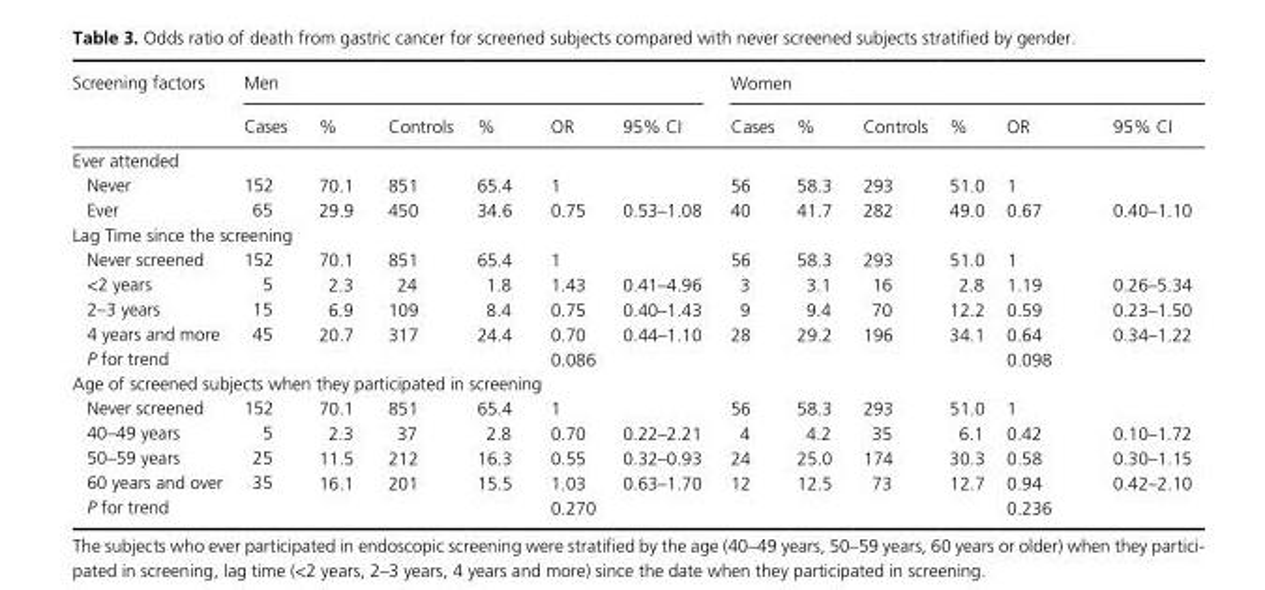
<table><thead><tr><td rowspan="2">Screening factors</td><td colspan="6">Men</td><td colspan="6">Women</td></tr><tr><td>Cases</td><td>%</td><td>Controls</td><td>%</td><td>OR</td><td>95% CI</td><td>Cases</td><td>%</td><td>Controls</td><td>%</td><td>OR</td><td>95% CI</td></tr></thead><tbody><tr><td colspan="13">Ever attended</td></tr><tr><td>Never</td><td>152</td><td>70.1</td><td>851</td><td>65.4</td><td>1</td><td></td><td>56</td><td>58.3</td><td>293</td><td>51.0</td><td>1</td><td></td></tr><tr><td>Ever</td><td>65</td><td>29.9</td><td>450</td><td>34.6</td><td>0.75</td><td>0.53–1.08</td><td>40</td><td>41.7</td><td>282</td><td>49.0</td><td>0.67</td><td>0.40–1.10</td></tr><tr><td colspan="13">Lag Time since the screening</td></tr><tr><td>Never screened</td><td>152</td><td>70.1</td><td>851</td><td>65.4</td><td>1</td><td></td><td>56</td><td>58.3</td><td>293</td><td>51.0</td><td>1</td><td></td></tr><tr><td>&lt;2 years</td><td>5</td><td>2.3</td><td>24</td><td>1.8</td><td>1.43</td><td>0.41–4.96</td><td>3</td><td>3.1</td><td>16</td><td>2.8</td><td>1.19</td><td>0.26–5.34</td></tr><tr><td>2–3 years</td><td>15</td><td>6.9</td><td>109</td><td>8.4</td><td>0.75</td><td>0.40–1.43</td><td>9</td><td>9.4</td><td>70</td><td>12.2</td><td>0.59</td><td>0.23–1.50</td></tr><tr><td>4 years and more</td><td>45</td><td>20.7</td><td>317</td><td>24.4</td><td>0.70</td><td>0.44–1.10</td><td>28</td><td>29.2</td><td>196</td><td>34.1</td><td>0.64</td><td>0.34–1.22</td></tr><tr><td>P for trend</td><td></td><td></td><td></td><td></td><td colspan="2">0.086</td><td></td><td></td><td></td><td></td><td colspan="2">0.098</td></tr><tr><td colspan="13">Age of screened subjects when they participated in screening</td></tr><tr><td>Never screened</td><td>152</td><td>70.1</td><td>851</td><td>65.4</td><td>1</td><td></td><td>56</td><td>58.3</td><td>293</td><td>51.0</td><td>1</td><td></td></tr><tr><td>40–49 years</td><td>5</td><td>2.3</td><td>37</td><td>2.8</td><td>0.70</td><td>0.22–2.21</td><td>4</td><td>4.2</td><td>35</td><td>6.1</td><td>0.42</td><td>0.10–1.72</td></tr><tr><td>50–59 years</td><td>25</td><td>11.5</td><td>212</td><td>16.3</td><td>0.55</td><td>0.32–0.93</td><td>24</td><td>25.0</td><td>174</td><td>30.3</td><td>0.58</td><td>0.30–1.15</td></tr><tr><td>60 years and over</td><td>35</td><td>16.1</td><td>201</td><td>15.5</td><td>1.03</td><td>0.63–1.70</td><td>12</td><td>12.5</td><td>73</td><td>12.7</td><td>0.94</td><td>0.42–2.10</td></tr><tr><td>P for trend</td><td></td><td></td><td></td><td></td><td colspan="2">0.270</td><td></td><td></td><td></td><td></td><td colspan="2">0.236</td></tr></tbody></table>